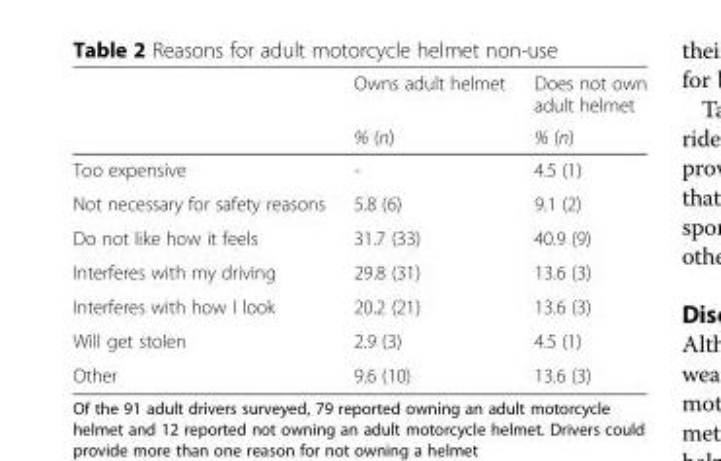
<table><thead><tr><td rowspan="2"></td><td rowspan="2">Owns adult helmet % (n)</td><td rowspan="2">Does not own adult helmet % (n)</td></tr><tr></tr></thead><tbody><tr><td>Too expensive</td><td>-</td><td>4.5 (1)</td></tr><tr><td>Not necessary for safety reasons</td><td>5.8 (6)</td><td>9.1 (2)</td></tr><tr><td>Do not like how it feels</td><td>31.7 (33)</td><td>40.9 (9)</td></tr><tr><td>Interferes with my driving</td><td>29.8 (31)</td><td>13.6 (3)</td></tr><tr><td>Interferes with how I look</td><td>20.2 (21)</td><td>13.6 (3)</td></tr><tr><td>Will get stolen</td><td>2.9 (3)</td><td>4.5 (1)</td></tr><tr><td>Other</td><td>9.6 (10)</td><td>13.6 (3)</td></tr></tbody></table>